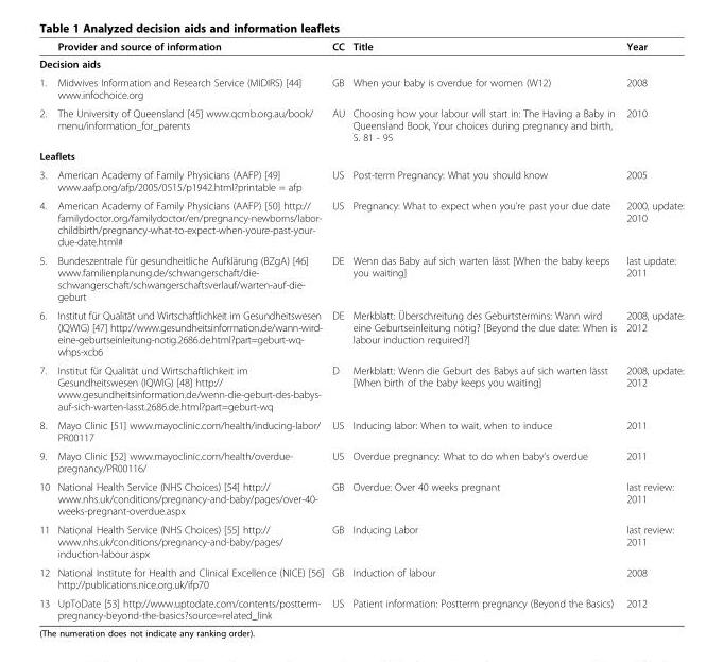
<table><thead><tr><td></td><td>Provider and source of information</td><td>CC</td><td>Title</td><td>Year</td></tr></thead><tbody><tr><td colspan="5">Decision aids</td></tr><tr><td>1.</td><td>Midwives Information and Research Service (MIDIRS) [44] www.infochoice.org</td><td>GB</td><td>When your baby is overdue for women (W12)</td><td>2008</td></tr><tr><td>2.</td><td>The University of Queensland [45] www.qcmb.org.au/book/ menu/information_for_parents</td><td>AU</td><td>Choosing how your labour will start in: The Having a Baby in Queensland Book, Your choices during pregnancy and birth, S. 81 - 95</td><td>2010</td></tr><tr><td colspan="5">Leaflets</td></tr><tr><td>3.</td><td>American Academy of Family Physicians (AAFP) [49] www.aafp.org/afp/2005/0515/p1942.html?printable = afp</td><td>US</td><td>Post-term Pregnancy: What you should know</td><td>2005</td></tr><tr><td>4.</td><td>American Academy of Family Physicians (AAFP) [50] http:// familydoctor.org/familydoctor/en/pregnancy-newborns/labor- childbirth/pregnancy-what-to-expect-when-youre-past-your- due-date.html#</td><td>US</td><td>Pregnancy: What to expect when you’re past your due date</td><td>2000, update: 2010</td></tr><tr><td>5.</td><td>Bundeszentrale für gesundheitliche Aufklärung (BZgA) [46] www.familienplanung.de/schwangerschaft/die- schwangerschaft/schwangerschaftsverlauf/warten-auf-die- geburt</td><td>DE</td><td>Wenn das Baby auf sich warten lässt [When the baby keeps you waiting]</td><td>last update: 2011</td></tr><tr><td>6.</td><td>Institut für Qualität und Wirtschaftlichkeit im Gesundheitswesen (IQWIG) [47] http://www.gesundheitsinformation.de/wann-wird- eine-geburtseinleitung-notig.2686.de.html?part=geburt-wq- whps-xcb6</td><td>DE</td><td>Merkblatt: Überschreitung des Geburtstermins: Wann wird eine Geburtseinleitung nötig? [Beyond the due date: When is labour induction required?]</td><td>2008, update: 2012</td></tr><tr><td>7.</td><td>Institut für Qualität und Wirtschaftlichkeit im Gesundheitswesen (IQWIG) [48] http:// www.gesundheitsinformation.de/wenn-die-geburt-des-babys- auf-sich-warten-lasst.2686.de.html?part=geburt-wq</td><td>D</td><td>Merkblatt: Wenn die Geburt des Babys auf sich warten lässt [When birth of the baby keeps you waiting]</td><td>2008, update: 2012</td></tr><tr><td>8.</td><td>Mayo Clinic [51] www.mayoclinic.com/health/inducing-labor/ PR00117</td><td>US</td><td>Inducing labor: When to wait, when to induce</td><td>2011</td></tr><tr><td>9.</td><td>Mayo Clinic [52] www.mayoclinic.com/health/overdue- pregnancy/PR00116/</td><td>US</td><td>Overdue pregnancy: What to do when baby’s overdue</td><td>2011</td></tr><tr><td>10</td><td>National Health Service (NHS Choices) [54] http:// www.nhs.uk/conditions/pregnancy-and-baby/pages/over-40- weeks-pregnant-overdue.aspx</td><td>GB</td><td>Overdue: Over 40 weeks pregnant</td><td>last review: 2011</td></tr><tr><td>11</td><td>National Health Service (NHS Choices) [55] http:// www.nhs.uk/conditions/pregnancy-and-baby/pages/ induction-labour.aspx</td><td>GB</td><td>Inducing Labor</td><td>last review: 2011</td></tr><tr><td>12</td><td>National Institute for Health and Clinical Excellence (NICE) [56] http://publications.nice.org.uk/ifp70</td><td>GB</td><td>Induction of labour</td><td>2008</td></tr><tr><td>13</td><td>UpToDate [53] http://www.uptodate.com/contents/postterm- pregnancy-beyond-the-basics?source=related_link</td><td>US</td><td>Patient information: Postterm pregnancy (Beyond the Basics)</td><td>2012</td></tr></tbody></table>